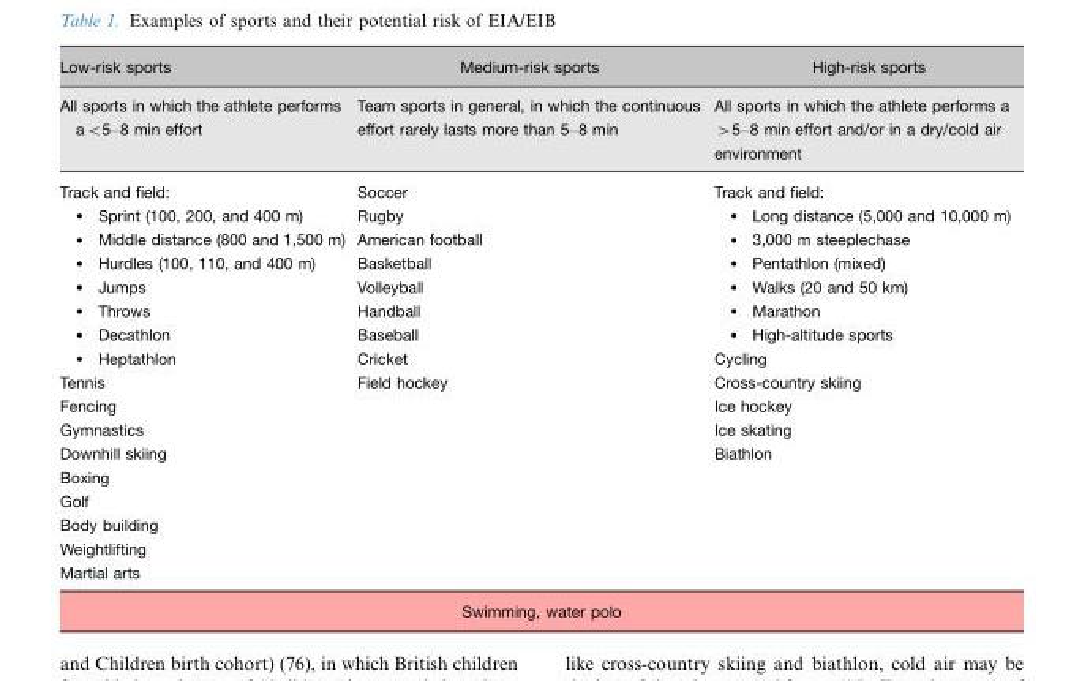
<table><thead><tr><td>Low-risk sports</td><td>Medium-risk sports</td><td>High-risk sports</td></tr></thead><tbody><tr><td>All sports in which the athlete performs a&lt;5–8 min effort</td><td>Team sports in general, in which the continuous effort rarely lasts more than 5–8 min</td><td>All sports in which the athlete performs a &gt;5–8 min effort and/or in a dry/cold air environment</td></tr><tr><td>Track and field: � Sprint (100, 200, and 400 m) � Middle distance (800 and 1,500 m) � Hurdles (100, 110, and 400 m) � Jumps � Throws � Decathlon � Heptathlon Tennis Fencing Gymnastics Downhill skiing Boxing Golf Body building Weightlifting Martial arts</td><td>Soccer Rugby American football Basketball Volleyball Handball Baseball Cricket Field hockey</td><td>Track and field: � Long distance (5,000 and 10,000 m) � 3,000 m steeplechase � Pentathlon (mixed) � Walks (20 and 50 km) � Marathon � High-altitude sports Cycling Cross-country skiing Ice hockey Ice skating Biathlon</td></tr><tr><td colspan="3">Swimming, water polo</td></tr></tbody></table>